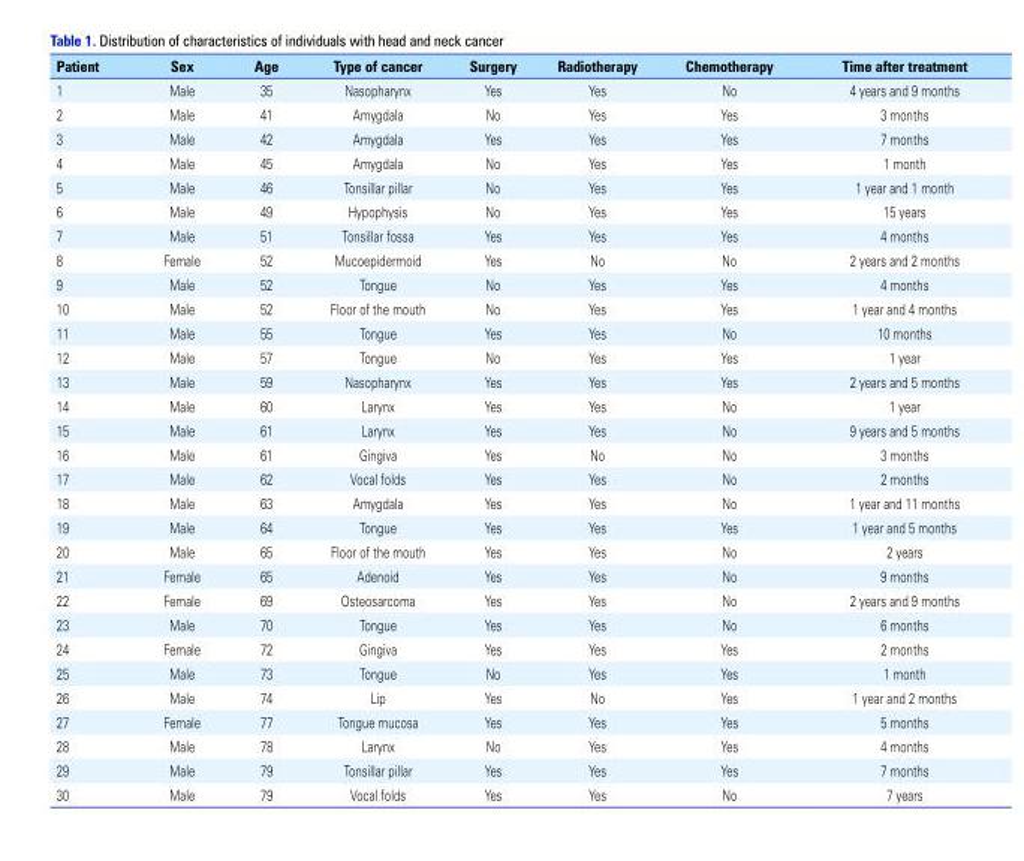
<table><thead><tr><td>Patient</td><td>Sex</td><td>Age</td><td>Type of cancer</td><td>Surgery</td><td>Radiotherapy</td><td>Chemotherapy</td><td>Time after treatment</td></tr></thead><tbody><tr><td>1</td><td>Male</td><td>35</td><td>Nasopharynx</td><td>Yes</td><td>Yes</td><td>No</td><td>4 years and 9 months</td></tr><tr><td>2</td><td>Male</td><td>41</td><td>Amygdala</td><td>No</td><td>Yes</td><td>Yes</td><td>3 months</td></tr><tr><td>3</td><td>Male</td><td>42</td><td>Amygdala</td><td>Yes</td><td>Yes</td><td>Yes</td><td>7 months</td></tr><tr><td>4</td><td>Male</td><td>45</td><td>Amygdala</td><td>No</td><td>Yes</td><td>Yes</td><td>1 month</td></tr><tr><td>5</td><td>Male</td><td>46</td><td>Tonsillar pillar</td><td>No</td><td>Yes</td><td>Yes</td><td>1 year and 1 month</td></tr><tr><td>6</td><td>Male</td><td>49</td><td>Hypophysis</td><td>No</td><td>Yes</td><td>Yes</td><td>15 years</td></tr><tr><td>7</td><td>Male</td><td>51</td><td>Tonsillar fossa</td><td>Yes</td><td>Yes</td><td>Yes</td><td>4 months</td></tr><tr><td>8</td><td>Female</td><td>52</td><td>Mucoepidermoid</td><td>Yes</td><td>No</td><td>No</td><td>2 years and 2 months</td></tr><tr><td>9</td><td>Male</td><td>52</td><td>Tongue</td><td>No</td><td>Yes</td><td>Yes</td><td>4 months</td></tr><tr><td>10</td><td>Male</td><td>52</td><td>Floor of the mouth</td><td>No</td><td>Yes</td><td>Yes</td><td>1 year and 4 months</td></tr><tr><td>11</td><td>Male</td><td>55</td><td>Tongue</td><td>Yes</td><td>Yes</td><td>No</td><td>10 months</td></tr><tr><td>12</td><td>Male</td><td>57</td><td>Tongue</td><td>No</td><td>Yes</td><td>Yes</td><td>1 year</td></tr><tr><td>13</td><td>Male</td><td>59</td><td>Nasopharynx</td><td>Yes</td><td>Yes</td><td>Yes</td><td>2 years and 5 months</td></tr><tr><td>14</td><td>Male</td><td>60</td><td>Larynx</td><td>Yes</td><td>Yes</td><td>No</td><td>1 year</td></tr><tr><td>15</td><td>Male</td><td>61</td><td>Larynx</td><td>Yes</td><td>Yes</td><td>No</td><td>9 years and 5 months</td></tr><tr><td>16</td><td>Male</td><td>61</td><td>Gingiva</td><td>Yes</td><td>No</td><td>No</td><td>3 months</td></tr><tr><td>17</td><td>Male</td><td>62</td><td>Vocal folds</td><td>Yes</td><td>Yes</td><td>No</td><td>2 months</td></tr><tr><td>18</td><td>Male</td><td>63</td><td>Amygdala</td><td>Yes</td><td>Yes</td><td>No</td><td>1 year and 11 months</td></tr><tr><td>19</td><td>Male</td><td>64</td><td>Tongue</td><td>Yes</td><td>Yes</td><td>Yes</td><td>1 year and 5 months</td></tr><tr><td>20</td><td>Male</td><td>65</td><td>Floor of the mouth</td><td>Yes</td><td>Yes</td><td>No</td><td>2 years</td></tr><tr><td>21</td><td>Female</td><td>65</td><td>Adenoid</td><td>Yes</td><td>Yes</td><td>No</td><td>9 months</td></tr><tr><td>22</td><td>Female</td><td>69</td><td>Osteosarcoma</td><td>Yes</td><td>Yes</td><td>No</td><td>2 years and 9 months</td></tr><tr><td>23</td><td>Male</td><td>70</td><td>Tongue</td><td>Yes</td><td>Yes</td><td>No</td><td>6 months</td></tr><tr><td>24</td><td>Female</td><td>72</td><td>Gingiva</td><td>Yes</td><td>Yes</td><td>Yes</td><td>2 months</td></tr><tr><td>25</td><td>Male</td><td>73</td><td>Tongue</td><td>No</td><td>Yes</td><td>Yes</td><td>1 month</td></tr><tr><td>26</td><td>Male</td><td>74</td><td>Lip</td><td>Yes</td><td>No</td><td>Yes</td><td>1 year and 2 months</td></tr><tr><td>27</td><td>Female</td><td>77</td><td>Tongue mucosa</td><td>Yes</td><td>Yes</td><td>Yes</td><td>5 months</td></tr><tr><td>28</td><td>Male</td><td>78</td><td>Larynx</td><td>No</td><td>Yes</td><td>Yes</td><td>4 months</td></tr><tr><td>29</td><td>Male</td><td>79</td><td>Tonsillar pillar</td><td>Yes</td><td>Yes</td><td>Yes</td><td>7 months</td></tr><tr><td>30</td><td>Male</td><td>79</td><td>Vocal folds</td><td>Yes</td><td>Yes</td><td>No</td><td>7 years</td></tr></tbody></table>